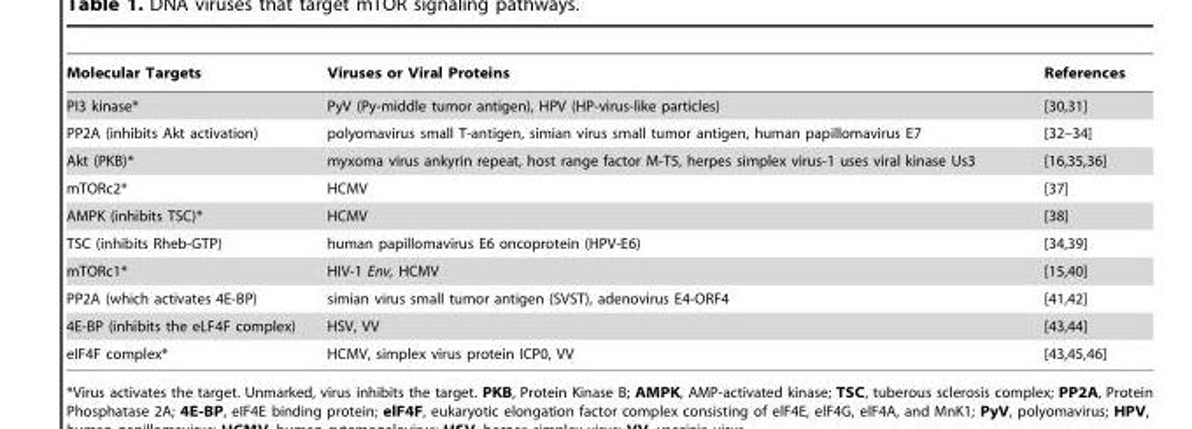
<table><thead><tr><td>Molecular Targets</td><td>Viruses or Viral Proteins</td><td>References</td></tr></thead><tbody><tr><td>PI3 kinase*</td><td>PyV (Py-middle tumor antigen), HPV (HP-virus-like particles)</td><td>[30,31]</td></tr><tr><td>PP2A (inhibits Akt activation)</td><td>polyomavirus small T-antigen, simian virus small tumor antigen, human papillomavirus E7</td><td>[32–34]</td></tr><tr><td>Akt (PKB)*</td><td>myxoma virus ankyrin repeat, host range factor M-T5, herpes simplex virus-1 uses viral kinase Us3</td><td>[16,35,36]</td></tr><tr><td>mTORc2*</td><td>HCMV</td><td>[37]</td></tr><tr><td>AMPK (inhibits TSC)*</td><td>HCMV</td><td>[38]</td></tr><tr><td>TSC (inhibits Rheb-GTP)</td><td>human papillomavirus E6 oncoprotein (HPV-E6)</td><td>[34,39]</td></tr><tr><td>mTORc1*</td><td>HIV-1 Env, HCMV</td><td>[15,40]</td></tr><tr><td>PP2A (which activates 4E-BP)</td><td>simian virus small tumor antigen (SVST), adenovirus E4-ORF4</td><td>[41,42]</td></tr><tr><td>4E-BP (inhibits the eLF4F complex)</td><td>HSV, VV</td><td>[43,44]</td></tr><tr><td>eIF4F complex*</td><td>HCMV, simplex virus protein ICP0, VV</td><td>[43,45,46]</td></tr></tbody></table>